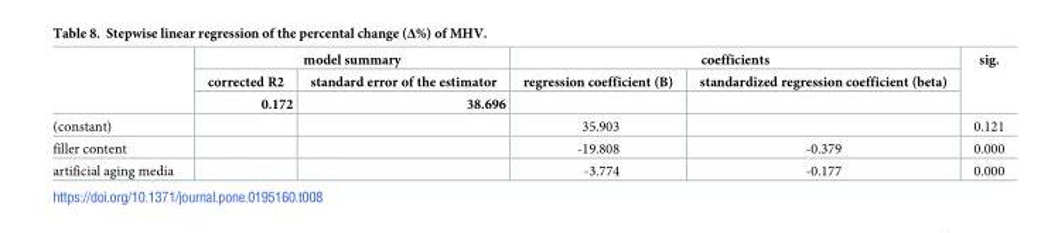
<table><thead><tr><td rowspan="3"></td><td colspan="2">model summary</td><td colspan="2">coefficients</td><td rowspan="3">sig.</td></tr><tr><td rowspan="2">corrected R2 0.172</td><td rowspan="2">standard error of the estimator 38.696</td><td rowspan="2">regression coefficient (B)</td><td rowspan="2">standardized regression coefficient (beta)</td></tr><tr></tr></thead><tbody><tr><td>(constant)</td><td></td><td></td><td>35.903</td><td></td><td>0.121</td></tr><tr><td>filler content</td><td></td><td></td><td>-19.808</td><td>-0.379</td><td>0.000</td></tr><tr><td>artificial aging media</td><td></td><td></td><td>-3.774</td><td>-0.177</td><td>0.000</td></tr></tbody></table>